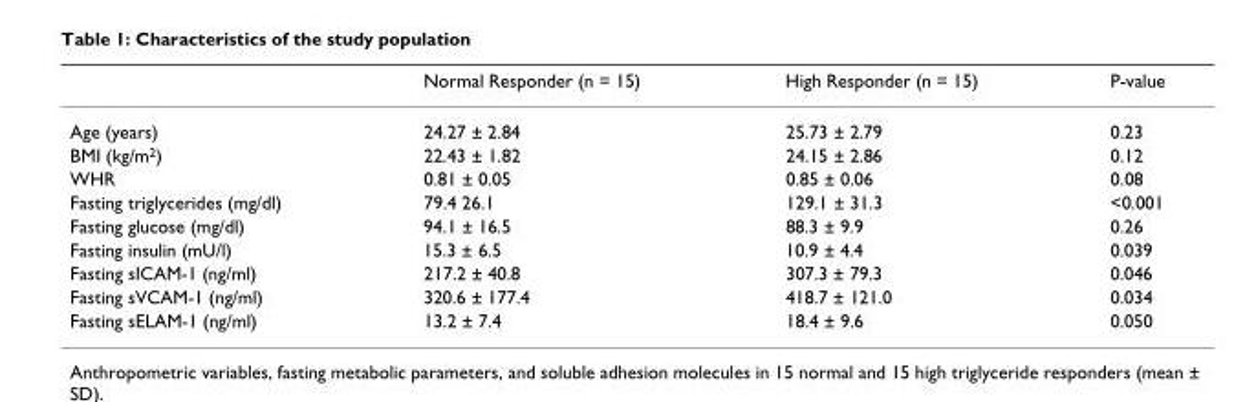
<table><thead><tr><td></td><td>Normal Responder (n = 15)</td><td>High Responder (n = 15)</td><td>P-value</td></tr></thead><tbody><tr><td>Age (years)</td><td>24.27 ± 2.84</td><td>25.73 ± 2.79</td><td>0.23</td></tr><tr><td>BMI (kg/m<sup>2</sup>)</td><td>22.43 ± 1.82</td><td>24.15 ± 2.86</td><td>0.12</td></tr><tr><td>WHR</td><td>0.81 ± 0.05</td><td>0.85 ± 0.06</td><td>0.08</td></tr><tr><td>Fasting triglycerides (mg/dl)</td><td>79.4 26.1</td><td>129.1 ± 31.3</td><td>&lt;0.001</td></tr><tr><td>Fasting glucose (mg/dl)</td><td>94.1 ± 16.5</td><td>88.3 ± 9.9</td><td>0.26</td></tr><tr><td>Fasting insulin (mU/l)</td><td>15.3 ± 6.5</td><td>10.9 ± 4.4</td><td>0.039</td></tr><tr><td>Fasting sICAM-1 (ng/ml)</td><td>217.2 ± 40.8</td><td>307.3 ± 79.3</td><td>0.046</td></tr><tr><td>Fasting sVCAM-1 (ng/ml)</td><td>320.6 ± 177.4</td><td>418.7 ± 121.0</td><td>0.034</td></tr><tr><td>Fasting sELAM-1 (ng/ml)</td><td>13.2 ± 7.4</td><td>18.4 ± 9.6</td><td>0.050</td></tr></tbody></table>